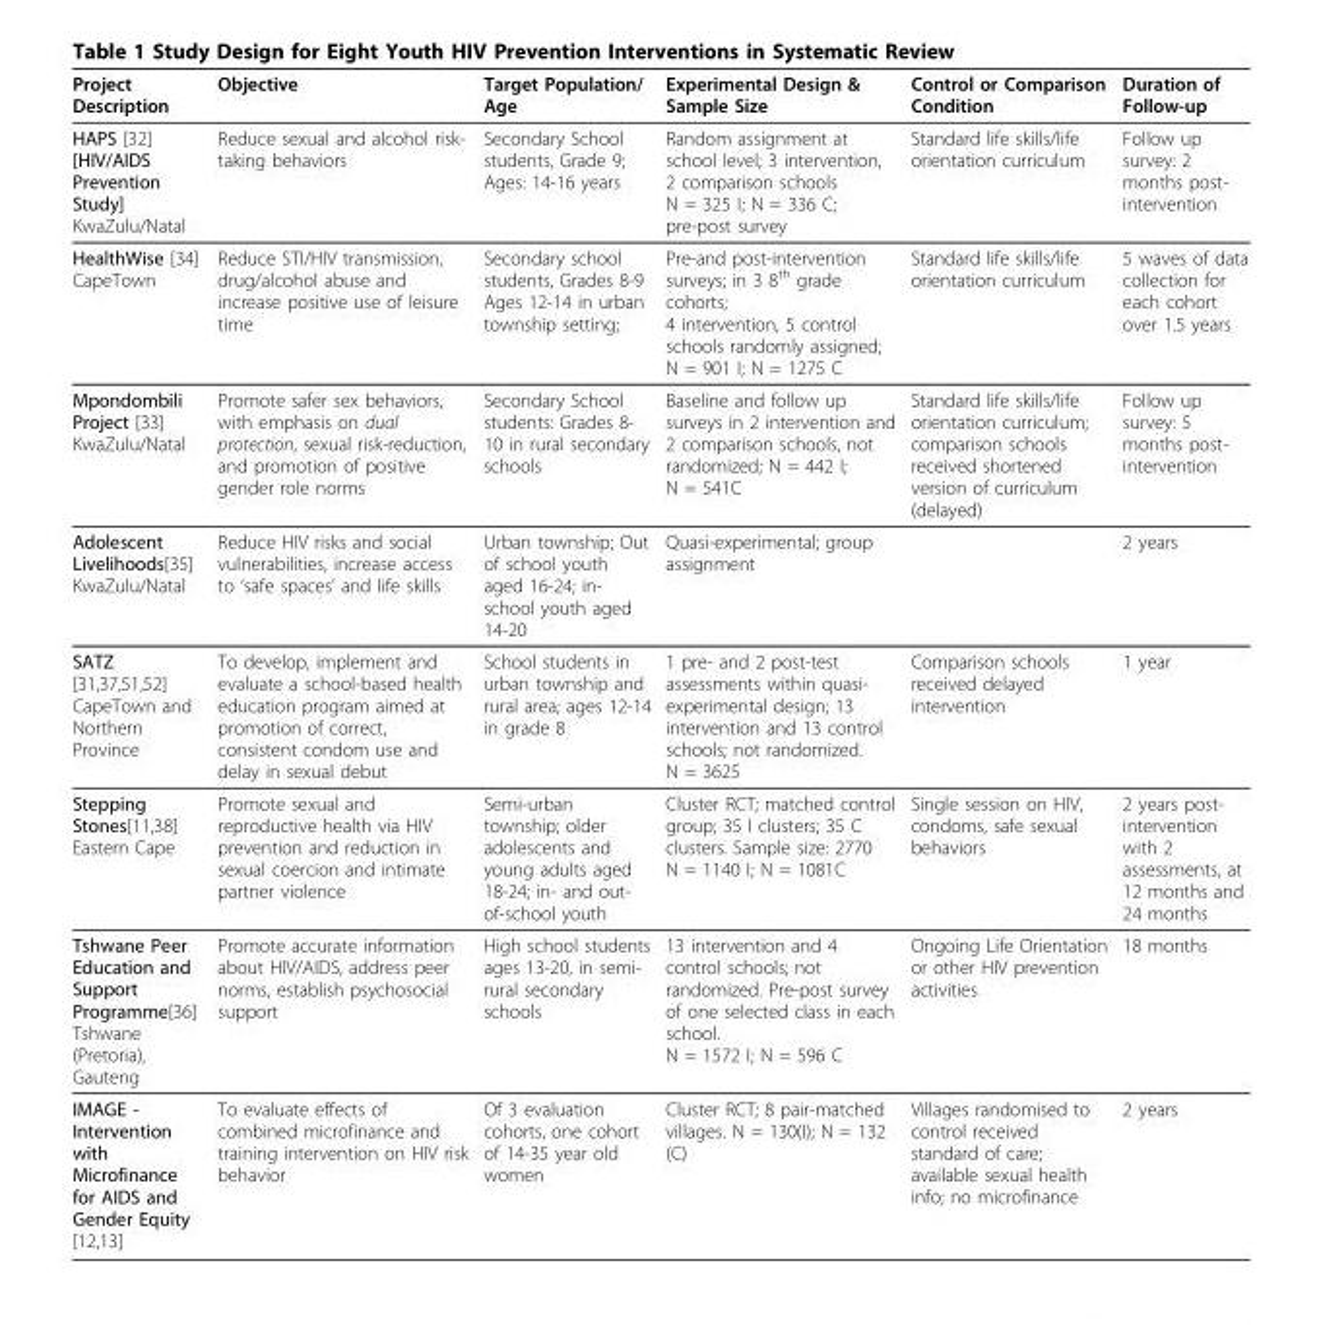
<table><thead><tr><td>Project Description</td><td>Objective</td><td>Target Population/ Age</td><td>Experimental Design &amp; Sample Size</td><td>Control or Comparison Condition</td><td>Duration of Follow-up</td></tr></thead><tbody><tr><td>HAPS [32] [HIV/AIDS Prevention Study] KwaZulu/Natal</td><td>Reduce sexual and alcohol risk- taking behaviors</td><td>Secondary School students, Grade 9; Ages: 14-16 years</td><td>Random assignment at school level; 3 intervention, 2 comparison schools N = 325 I; N = 336 C; pre-post survey</td><td>Standard life skills/life orientation curriculum</td><td>Follow up survey: 2 months post- intervention</td></tr><tr><td>HealthWise [34] CapeTown</td><td>Reduce STI/HIV transmission, drug/alcohol abuse and increase positive use of leisure time</td><td>Secondary school students, Grades 8-9 Ages 12-14 in urban township setting;</td><td>Pre-and post-intervention surveys; in 3 8<sup>th</sup> grade cohorts; 4 intervention, 5 control schools randomly assigned; N = 901 I; N = 1275 C</td><td>Standard life skills/life orientation curriculum</td><td>5 waves of data collection for each cohort over 1.5 years</td></tr><tr><td>Mpondombili Project [33] KwaZulu/Natal</td><td>Promote safer sex behaviors, with emphasis on dual protection, sexual risk-reduction, and promotion of positive gender role norms</td><td>Secondary School students: Grades 8- 10 in rural secondary schools</td><td>Baseline and follow up surveys in 2 intervention and 2 comparison schools, not randomized; N = 442 I; N = 541C</td><td>Standard life skills/life orientation curriculum; comparison schools received shortened version of curriculum (delayed)</td><td>Follow up survey: 5 months post- intervention</td></tr><tr><td>Adolescent Livelihoods[35] KwaZulu/Natal</td><td>Reduce HIV risks and social vulnerabilities, increase access to ‘safe spaces’ and life skills</td><td>Urban township; Out of school youth aged 16-24; in- school youth aged 14-20</td><td>Quasi-experimental; group assignment</td><td></td><td>2 years</td></tr><tr><td>SATZ [31,37,51,52] CapeTown and Northern Province</td><td>To develop, implement and evaluate a school-based health education program aimed at promotion of correct, consistent condom use and delay in sexual debut</td><td>School students in urban township and rural area; ages 12-14 in grade 8</td><td>1 pre- and 2 post-test assessments within quasi- experimental design; 13 intervention and 13 control schools; not randomized. N = 3625</td><td>Comparison schools received delayed intervention</td><td>1 year</td></tr><tr><td>Stepping Stones[11,38] Eastern Cape</td><td>Promote sexual and reproductive health via HIV prevention and reduction in sexual coercion and intimate partner violence</td><td>Semi-urban township; older adolescents and young adults aged 18-24; in- and out- of-school youth</td><td>Cluster RCT; matched control group; 35 I clusters; 35 C clusters. Sample size: 2770 N = 1140 I; N = 1081C</td><td>Single session on HIV, condoms, safe sexual behaviors</td><td>2 years post- intervention with 2 assessments, at 12 months and 24 months</td></tr><tr><td>Tshwane Peer Education and Support Programme[36] Tshwane (Pretoria), Gauteng</td><td>Promote accurate information about HIV/AIDS, address peer norms, establish psychosocial support</td><td>High school students ages 13-20, in semi- rural secondary schools</td><td>13 intervention and 4 control schools; not randomized. Pre-post survey of one selected class in each school. N = 1572 I; N = 596 C</td><td>Ongoing Life Orientation or other HIV prevention activities</td><td>18 months</td></tr><tr><td>IMAGE - Intervention with Microfinance for AIDS and Gender Equity [12,13]</td><td>To evaluate effects of combined microfinance and training intervention on HIV risk behavior</td><td>Of 3 evaluation cohorts, one cohort of 14-35 year old women</td><td>Cluster RCT; 8 pair-matched villages. N = 130(I); N = 132 (C)</td><td>Villages randomised to control received standard of care; available sexual health info; no microfinance</td><td>2 years</td></tr></tbody></table>